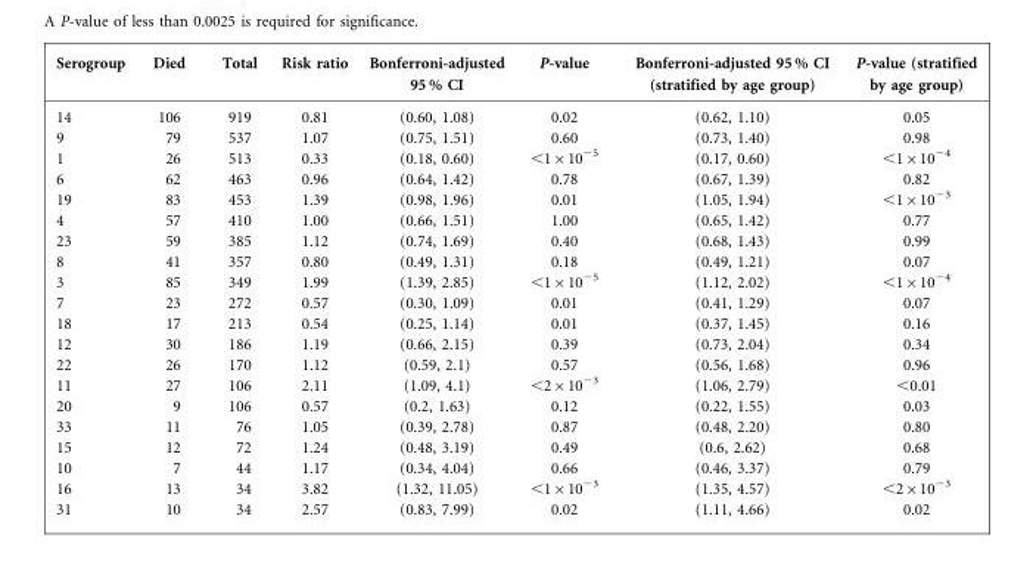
<table><thead><tr><td>Serogroup</td><td>Died</td><td>Total</td><td>Risk ratio</td><td>Bonferroni-adjusted 95 % CI</td><td>P-value</td><td>Bonferroni-adjusted 95 % CI (stratified by age group)</td><td>P-value (stratified by age group)</td></tr></thead><tbody><tr><td>14</td><td>106</td><td>919</td><td>0.81</td><td>(0.60, 1.08)</td><td>0.02</td><td>(0.62, 1.10)</td><td>0.05</td></tr><tr><td>9</td><td>79</td><td>537</td><td>1.07</td><td>(0.75, 1.51)</td><td>0.60</td><td>(0.73, 1.40)</td><td>0.98</td></tr><tr><td>1</td><td>26</td><td>513</td><td>0.33</td><td>(0.18, 0.60)</td><td>&lt;1×10<sup>−5</sup></td><td>(0.17, 0.60)</td><td>&lt;1×10<sup>−4</sup></td></tr><tr><td>6</td><td>62</td><td>463</td><td>0.96</td><td>(0.64, 1.42)</td><td>0.78</td><td>(0.67, 1.39)</td><td>0.82</td></tr><tr><td>19</td><td>83</td><td>453</td><td>1.39</td><td>(0.98, 1.96)</td><td>0.01</td><td>(1.05, 1.94)</td><td>&lt;1×10<sup>−3</sup></td></tr><tr><td>4</td><td>57</td><td>410</td><td>1.00</td><td>(0.66, 1.51)</td><td>1.00</td><td>(0.65, 1.42)</td><td>0.77</td></tr><tr><td>23</td><td>59</td><td>385</td><td>1.12</td><td>(0.74, 1.69)</td><td>0.40</td><td>(0.68, 1.43)</td><td>0.99</td></tr><tr><td>8</td><td>41</td><td>357</td><td>0.80</td><td>(0.49, 1.31)</td><td>0.18</td><td>(0.49, 1.21)</td><td>0.07</td></tr><tr><td>3</td><td>85</td><td>349</td><td>1.99</td><td>(1.39, 2.85)</td><td>&lt;1×10<sup>−5</sup></td><td>(1.12, 2.02)</td><td>&lt;1×10<sup>−4</sup></td></tr><tr><td>7</td><td>23</td><td>272</td><td>0.57</td><td>(0.30, 1.09)</td><td>0.01</td><td>(0.41, 1.29)</td><td>0.07</td></tr><tr><td>18</td><td>17</td><td>213</td><td>0.54</td><td>(0.25, 1.14)</td><td>0.01</td><td>(0.37, 1.45)</td><td>0.16</td></tr><tr><td>12</td><td>30</td><td>186</td><td>1.19</td><td>(0.66, 2.15)</td><td>0.39</td><td>(0.73, 2.04)</td><td>0.34</td></tr><tr><td>22</td><td>26</td><td>170</td><td>1.12</td><td>(0.59, 2.1)</td><td>0.57</td><td>(0.56, 1.68)</td><td>0.96</td></tr><tr><td>11</td><td>27</td><td>106</td><td>2.11</td><td>(1.09, 4.1)</td><td>&lt;2×10<sup>−3</sup></td><td>(1.06, 2.79)</td><td>&lt;0.01</td></tr><tr><td>20</td><td>9</td><td>106</td><td>0.57</td><td>(0.2, 1.63)</td><td>0.12</td><td>(0.22, 1.55)</td><td>0.03</td></tr><tr><td>33</td><td>11</td><td>76</td><td>1.05</td><td>(0.39, 2.78)</td><td>0.87</td><td>(0.48, 2.20)</td><td>0.80</td></tr><tr><td>15</td><td>12</td><td>72</td><td>1.24</td><td>(0.48, 3.19)</td><td>0.49</td><td>(0.6, 2.62)</td><td>0.68</td></tr><tr><td>10</td><td>7</td><td>44</td><td>1.17</td><td>(0.34, 4.04)</td><td>0.66</td><td>(0.46, 3.37)</td><td>0.79</td></tr><tr><td>16</td><td>13</td><td>34</td><td>3.82</td><td>(1.32, 11.05)</td><td>&lt;1×10<sup>−3</sup></td><td>(1.35, 4.57)</td><td>&lt;2×10<sup>−3</sup></td></tr><tr><td>31</td><td>10</td><td>34</td><td>2.57</td><td>(0.83, 7.99)</td><td>0.02</td><td>(1.11, 4.66)</td><td>0.02</td></tr></tbody></table>